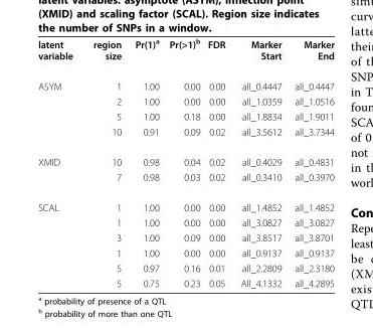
<table><tbody><tr><td>latent variable</td><td>region size</td><td>Pr(1)<sup>a</sup></td><td>Pr(&gt;1)<sup>b</sup></td><td>FDR</td><td>Marker Start</td><td>Marker End</td></tr><tr><td rowspan="4">ASYM</td><td>1</td><td>1.00</td><td>0.00</td><td>0.00</td><td>all_0.4447</td><td>all_0.4447</td></tr><tr><td>2</td><td>1.00</td><td>0.00</td><td>0.00</td><td>all_1.0359</td><td>all_1.0516</td></tr><tr><td>5</td><td>1.00</td><td>0.18</td><td>0.00</td><td>all_1.8834</td><td>all_1.9011</td></tr><tr><td>10</td><td>0.91</td><td>0.09</td><td>0.02</td><td>all_3.5612</td><td>all_3.7344</td></tr><tr><td rowspan="2">XMID</td><td>10</td><td>0.98</td><td>0.04</td><td>0.02</td><td>all_0.4029</td><td>all_0.4831</td></tr><tr><td>7</td><td>0.98</td><td>0.03</td><td>0.02</td><td>all_0.3410</td><td>all_0.3970</td></tr><tr><td rowspan="6">SCAL</td><td>1</td><td>1.00</td><td>0.00</td><td>0.00</td><td>all_1.4852</td><td>all_1.4852</td></tr><tr><td>1</td><td>1.00</td><td>0.00</td><td>0.00</td><td>all_3.0827</td><td>all_3.0827</td></tr><tr><td>3</td><td>1.00</td><td>0.09</td><td>0.00</td><td>all_3.8517</td><td>all_3.8701</td></tr><tr><td>1</td><td>1.00</td><td>0.00</td><td>0.00</td><td>all_0.9137</td><td>all_0.9137</td></tr><tr><td>5</td><td>0.97</td><td>0.16</td><td>0.01</td><td>all_2.2809</td><td>all_2.3180</td></tr><tr><td>5</td><td>0.75</td><td>0.23</td><td>0.05</td><td>All_4.1332</td><td>all_4.2895</td></tr></tbody></table>